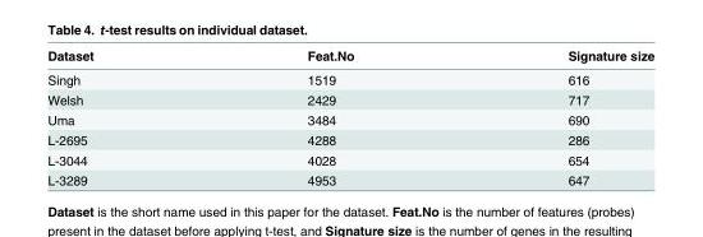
<table><thead><tr><td>Dataset</td><td>Feat.No</td><td>Signature size</td></tr></thead><tbody><tr><td>Singh</td><td>1519</td><td>616</td></tr><tr><td>Welsh</td><td>2429</td><td>717</td></tr><tr><td>Uma</td><td>3484</td><td>690</td></tr><tr><td>L-2695</td><td>4288</td><td>286</td></tr><tr><td>L-3044</td><td>4028</td><td>654</td></tr><tr><td>L-3289</td><td>4953</td><td>647</td></tr></tbody></table>